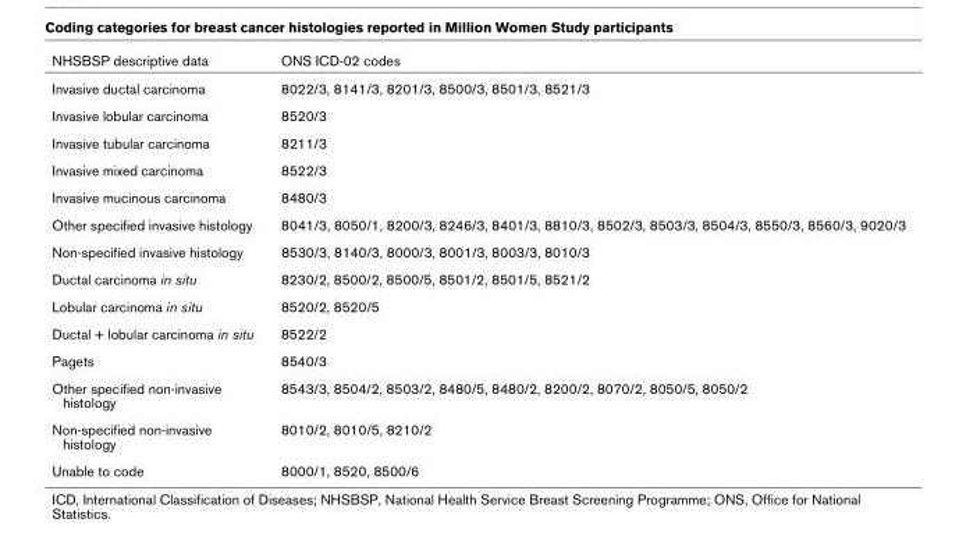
<table><thead><tr><td>NHSBSP descriptive data</td><td>ONS ICD-02 codes</td></tr></thead><tbody><tr><td>Invasive ductal carcinoma</td><td>8022/3, 8141/3, 8201/3, 8500/3, 8501/3, 8521/3</td></tr><tr><td>Invasive lobular carcinoma</td><td>8520/3</td></tr><tr><td>Invasive tubular carcinoma</td><td>8211/3</td></tr><tr><td>Invasive mixed carcinoma</td><td>8522/3</td></tr><tr><td>Invasive mucinous carcinoma</td><td>8480/3</td></tr><tr><td>Other specified invasive histology</td><td>8041/3, 8050/1, 8200/3, 8246/3, 8401/3, 8810/3, 8502/3, 8503/3, 8504/3, 8550/3, 8560/3, 9020/3</td></tr><tr><td>Non-specified invasive histology</td><td>8530/3, 8140/3, 8000/3, 8001/3, 8003/3, 8010/3</td></tr><tr><td>Ductal carcinoma in situ</td><td>8230/2, 8500/2, 8500/5, 8501/2, 8501/5, 8521/2</td></tr><tr><td>Lobular carcinoma in situ</td><td>8520/2, 8520/5</td></tr><tr><td>Ductal + lobular carcinoma in situ</td><td>8522/2</td></tr><tr><td>Pagets</td><td>8540/3</td></tr><tr><td>Other specified non-invasive histology</td><td>8543/3, 8504/2, 8503/2, 8480/5, 8480/2, 8200/2, 8070/2, 8050/5, 8050/2</td></tr><tr><td>Non-specified non-invasive histology</td><td>8010/2, 8010/5, 8210/2</td></tr><tr><td>Unable to code</td><td>8000/1, 8520, 8500/6</td></tr></tbody></table>